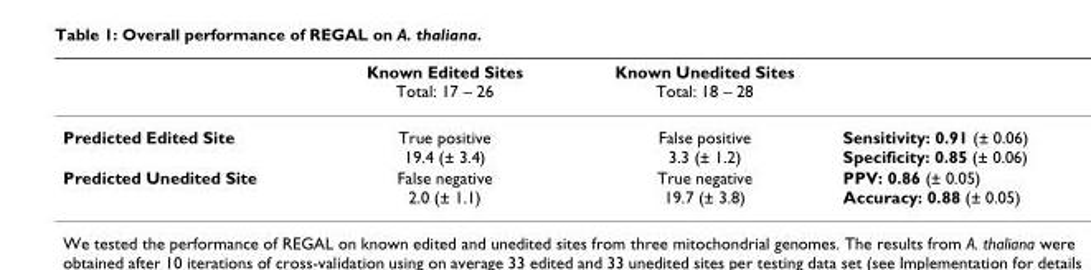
<table><thead><tr><td></td><td>Known Edited Sites Total: 17 – 26</td><td>Known Unedited Sites Total: 18 – 28</td><td></td></tr></thead><tbody><tr><td>Predicted Edited Site</td><td>True positive 19.4 (± 3.4)</td><td>False positive 3.3 (± 1.2)</td><td>Sensitivity: 0.91 (± 0.06) Specificity: 0.85 (± 0.06)</td></tr><tr><td>Predicted Unedited Site</td><td>False negative 2.0 (± 1.1)</td><td>True negative 19.7 (± 3.8)</td><td>PPV: 0.86 (± 0.05) Accuracy: 0.88 (± 0.05)</td></tr></tbody></table>